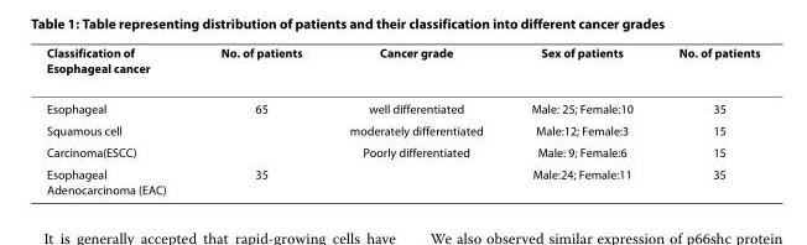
<table><thead><tr><td>Classification of Esophageal cancer</td><td>No. of patients</td><td>Cancer grade</td><td>Sex of patients</td><td>No. of patients</td></tr></thead><tbody><tr><td>Esophageal</td><td>65</td><td>well differentiated</td><td>Male: 25; Female:10</td><td>35</td></tr><tr><td>Squamous cell</td><td></td><td>moderately differentiated</td><td>Male:12; Female:3</td><td>15</td></tr><tr><td>Carcinoma(ESCC)</td><td></td><td>Poorly differentiated</td><td>Male: 9; Female:6</td><td>15</td></tr><tr><td>Esophageal Adenocarcinoma (EAC)</td><td>35</td><td></td><td>Male:24; Female:11</td><td>35</td></tr></tbody></table>